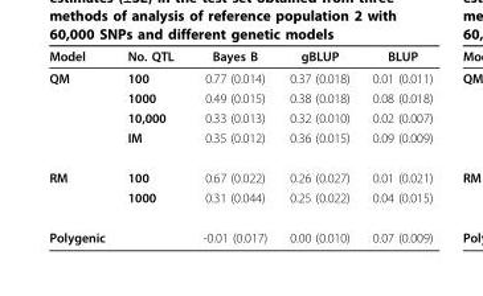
<table><thead><tr><td>Model</td><td>No. QTL</td><td>Bayes B</td><td>gBLUP</td><td>BLUP</td></tr></thead><tbody><tr><td rowspan="4">QM</td><td>100</td><td>0.77 (0.014)</td><td>0.37 (0.018)</td><td>0.01 (0.011)</td></tr><tr><td>1000</td><td>0.49 (0.015)</td><td>0.38 (0.018)</td><td>0.08 (0.018)</td></tr><tr><td>10,000</td><td>0.33 (0.013)</td><td>0.32 (0.010)</td><td>0.02 (0.007)</td></tr><tr><td>IM</td><td>0.35 (0.012)</td><td>0.36 (0.015)</td><td>0.09 (0.009)</td></tr><tr><td rowspan="2">RM</td><td>100</td><td>0.67 (0.022)</td><td>0.26 (0.027)</td><td>0.01 (0.021)</td></tr><tr><td>1000</td><td>0.31 (0.044)</td><td>0.25 (0.022)</td><td>0.04 (0.015)</td></tr><tr><td>Polygenic</td><td></td><td>-0.01 (0.017)</td><td>0.00 (0.010)</td><td>0.07 (0.009)</td></tr></tbody></table>